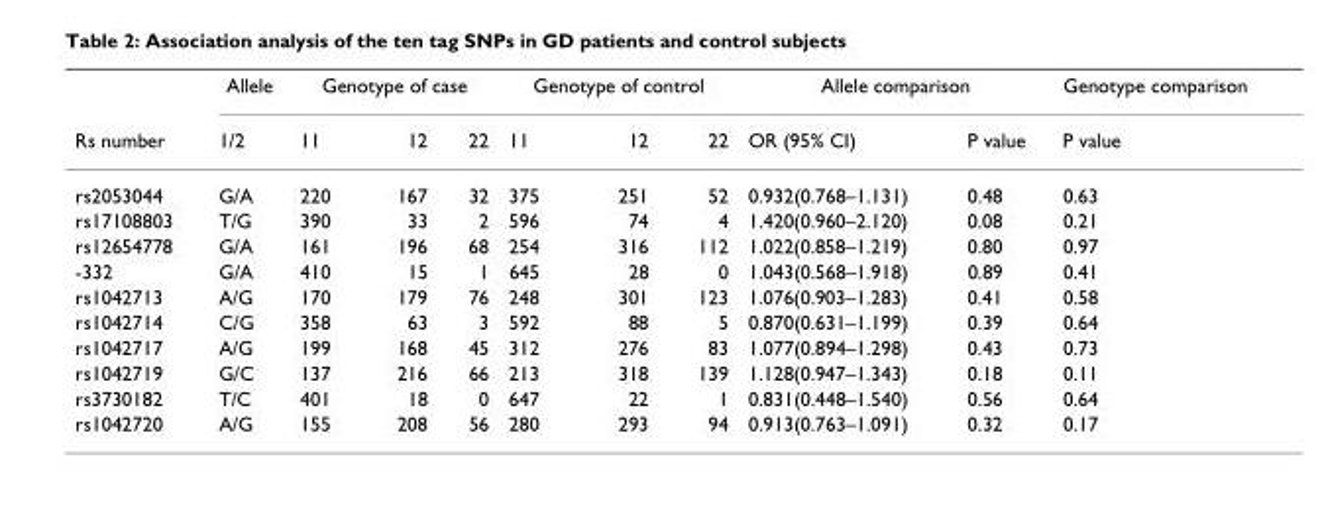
<table><thead><tr><td rowspan="2">Rs number</td><td rowspan="2">Allele 1/2</td><td colspan="3">Genotype of case</td><td colspan="3">Genotype of control</td><td colspan="2">Allele comparison</td><td rowspan="2">Genotype comparison P value</td></tr><tr><td>11</td><td>12</td><td>22</td><td>11</td><td>12</td><td>22</td><td>OR (95% CI)</td><td>P value</td></tr></thead><tbody><tr><td>rs2053044</td><td>G/A</td><td>220</td><td>167</td><td>32</td><td>375</td><td>251</td><td>52</td><td>0.932(0.768–1.131)</td><td>0.48</td><td>0.63</td></tr><tr><td>rs17108803</td><td>T/G</td><td>390</td><td>33</td><td>2</td><td>596</td><td>74</td><td>4</td><td>1.420(0.960–2.120)</td><td>0.08</td><td>0.21</td></tr><tr><td>rs12654778</td><td>G/A</td><td>161</td><td>196</td><td>68</td><td>254</td><td>316</td><td>112</td><td>1.022(0.858–1.219)</td><td>0.80</td><td>0.97</td></tr><tr><td>-332</td><td>G/A</td><td>410</td><td>15</td><td>1</td><td>645</td><td>28</td><td>0</td><td>1.043(0.568–1.918)</td><td>0.89</td><td>0.41</td></tr><tr><td>rs1042713</td><td>A/G</td><td>170</td><td>179</td><td>76</td><td>248</td><td>301</td><td>123</td><td>1.076(0.903–1.283)</td><td>0.41</td><td>0.58</td></tr><tr><td>rs1042714</td><td>C/G</td><td>358</td><td>63</td><td>3</td><td>592</td><td>88</td><td>5</td><td>0.870(0.631–1.199)</td><td>0.39</td><td>0.64</td></tr><tr><td>rs1042717</td><td>A/G</td><td>199</td><td>168</td><td>45</td><td>312</td><td>276</td><td>83</td><td>1.077(0.894–1.298)</td><td>0.43</td><td>0.73</td></tr><tr><td>rs1042719</td><td>G/C</td><td>137</td><td>216</td><td>66</td><td>213</td><td>318</td><td>139</td><td>1.128(0.947–1.343)</td><td>0.18</td><td>0.11</td></tr><tr><td>rs3730182</td><td>T/C</td><td>401</td><td>18</td><td>0</td><td>647</td><td>22</td><td>1</td><td>0.831(0.448–1.540)</td><td>0.56</td><td>0.64</td></tr><tr><td>rs1042720</td><td>A/G</td><td>155</td><td>208</td><td>56</td><td>280</td><td>293</td><td>94</td><td>0.913(0.763–1.091)</td><td>0.32</td><td>0.17</td></tr></tbody></table>